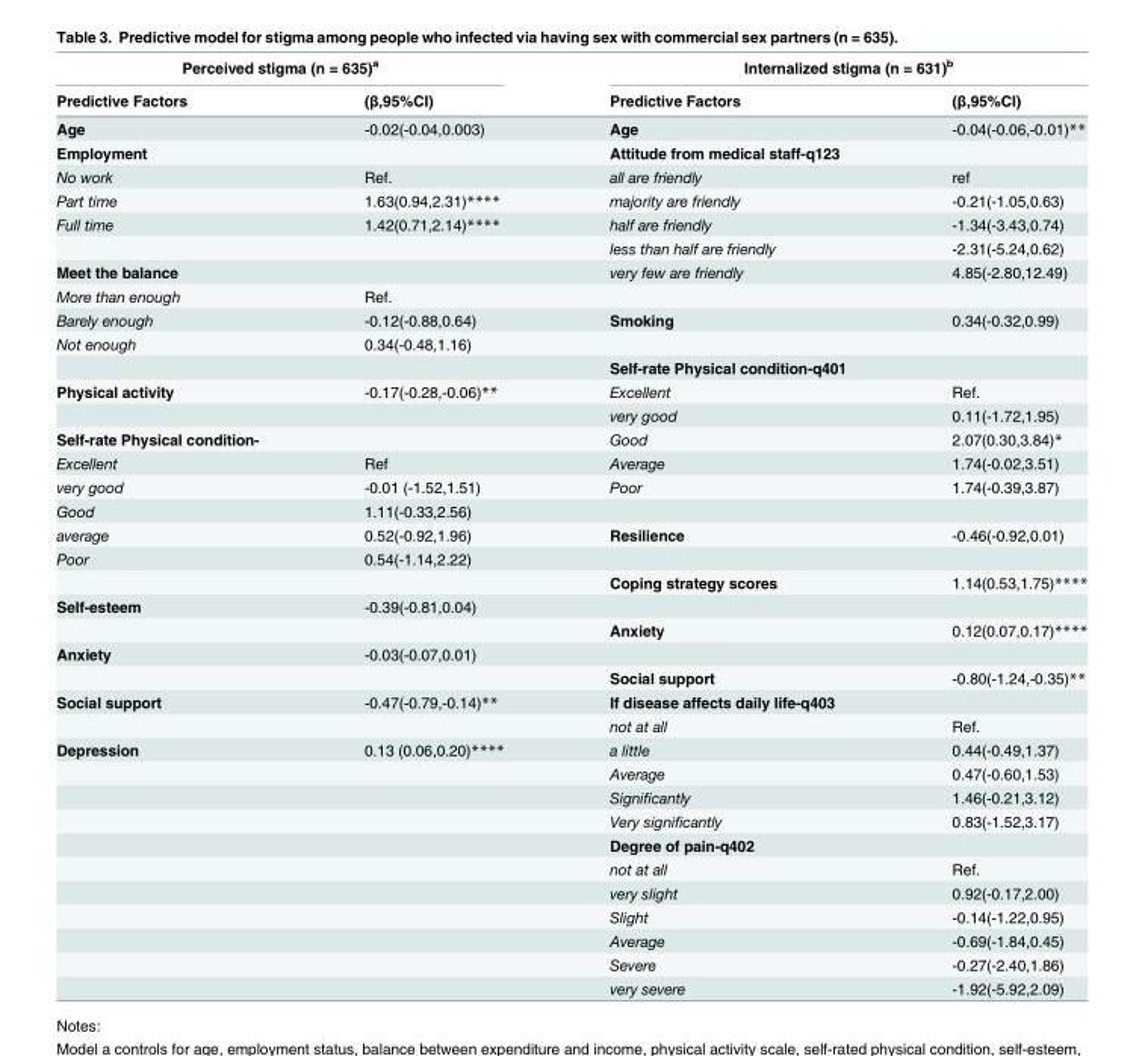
<table><thead><tr><td colspan="2">Perceived stigma (n = 635)<sup>a</sup></td><td colspan="2">Internalized stigma (n = 631)<sup>b</sup></td></tr><tr><td>Predictive Factors</td><td>(β,95%CI)</td><td>Predictive Factors</td><td>(β,95%CI)</td></tr></thead><tbody><tr><td>Age</td><td>-0.02(-0.04,0.003)</td><td>Age</td><td>-0.04(-0.06,-0.01)**</td></tr><tr><td>Employment</td><td></td><td>Attitude from medical staff-q123</td><td></td></tr><tr><td>No work</td><td>Ref.</td><td>all are friendly</td><td>ref</td></tr><tr><td>Part time</td><td>1.63(0.94,2.31)****</td><td>majority are friendly</td><td>-0.21(-1.05,0.63)</td></tr><tr><td rowspan="2">Full time</td><td>1.42(0.71,2.14)****</td><td>half are friendly</td><td>-1.34(-3.43,0.74)</td></tr><tr><td></td><td>less than half are friendly</td><td>-2.31(-5.24,0.62)</td></tr><tr><td>Meet the balance</td><td></td><td>very few are friendly</td><td>4.85(-2.80,12.49)</td></tr><tr><td>More than enough</td><td>Ref.</td><td></td><td></td></tr><tr><td>Barely enough</td><td>-0.12(-0.88,0.64)</td><td>Smoking</td><td>0.34(-0.32,0.99)</td></tr><tr><td rowspan="2">Not enough</td><td>0.34(-0.48,1.16)</td><td></td><td></td></tr><tr><td></td><td>Self-rate Physical condition-q401</td><td></td></tr><tr><td rowspan="2">Physical activity</td><td>-0.17(-0.28,-0.06)**</td><td>Excellent</td><td>Ref.</td></tr><tr><td></td><td>very good</td><td>0.11(-1.72,1.95)</td></tr><tr><td>Self-rate Physical condition-</td><td></td><td>Good</td><td>2.07(0.30,3.84)*</td></tr><tr><td>Excellent</td><td>Ref</td><td>Average</td><td>1.74(-0.02,3.51)</td></tr><tr><td>very good</td><td>-0.01 (-1.52,1.51)</td><td>Poor</td><td>1.74(-0.39,3.87)</td></tr><tr><td>Good</td><td>1.11(-0.33,2.56)</td><td></td><td></td></tr><tr><td>average</td><td>0.52(-0.92,1.96)</td><td>Resilience</td><td>-0.46(-0.92,0.01)</td></tr><tr><td rowspan="2">Poor</td><td>0.54(-1.14,2.22)</td><td></td><td></td></tr><tr><td></td><td>Coping strategy scores</td><td>1.14(0.53,1.75)****</td></tr><tr><td rowspan="2">Self-esteem</td><td>-0.39(-0.81,0.04)</td><td></td><td></td></tr><tr><td></td><td>Anxiety</td><td>0.12(0.07,0.17)****</td></tr><tr><td rowspan="2">Anxiety</td><td>-0.03(-0.07,0.01)</td><td></td><td></td></tr><tr><td></td><td>Social support</td><td>-0.80(-1.24,-0.35)**</td></tr><tr><td rowspan="2">Social support</td><td>-0.47(-0.79,-0.14)**</td><td>If disease affects daily life-q403</td><td></td></tr><tr><td></td><td>not at all</td><td>Ref.</td></tr><tr><td rowspan="11">Depression</td><td>0.13 (0.06,0.20)****</td><td>a little</td><td>0.44(-0.49,1.37)</td></tr><tr><td></td><td>Average</td><td>0.47(-0.60,1.53)</td></tr><tr><td></td><td>Significantly</td><td>1.46(-0.21,3.12)</td></tr><tr><td></td><td>Very significantly</td><td>0.83(-1.52,3.17)</td></tr><tr><td></td><td>Degree of pain-q402</td><td></td></tr><tr><td></td><td>not at all</td><td>Ref.</td></tr><tr><td></td><td>very slight</td><td>0.92(-0.17,2.00)</td></tr><tr><td></td><td>Slight</td><td>-0.14(-1.22,0.95)</td></tr><tr><td></td><td>Average</td><td>-0.69(-1.84,0.45)</td></tr><tr><td></td><td>Severe</td><td>-0.27(-2.40,1.86)</td></tr><tr><td></td><td>very severe</td><td>-1.92(-5.92,2.09)</td></tr></tbody></table>